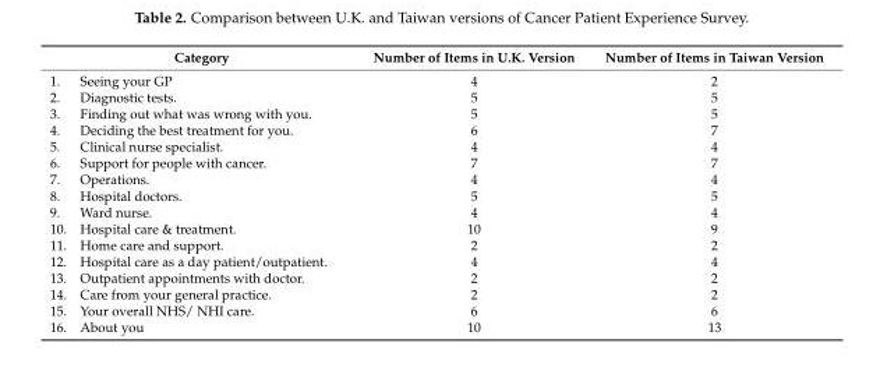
<table><thead><tr><td>Category</td><td>Number of Items in U.K. Version</td><td>Number of Items in Taiwan Version</td></tr></thead><tbody><tr><td>1. Seeing your GP</td><td>4</td><td>2</td></tr><tr><td>2. Diagnostic tests.</td><td>5</td><td>5</td></tr><tr><td>3. Finding out what was wrong with you.</td><td>5</td><td>5</td></tr><tr><td>4. Deciding the best treatment for you.</td><td>6</td><td>7</td></tr><tr><td>5. Clinical nurse specialist.</td><td>4</td><td>4</td></tr><tr><td>6. Support for people with cancer.</td><td>7</td><td>7</td></tr><tr><td>7. Operations.</td><td>4</td><td>4</td></tr><tr><td>8. Hospital doctors.</td><td>5</td><td>5</td></tr><tr><td>9. Ward nurse.</td><td>4</td><td>4</td></tr><tr><td>10. Hospital care &amp; treatment.</td><td>10</td><td>9</td></tr><tr><td>11. Home care and support.</td><td>2</td><td>2</td></tr><tr><td>12. Hospital care as a day patient/outpatient.</td><td>4</td><td>4</td></tr><tr><td>13. Outpatient appointments with doctor.</td><td>2</td><td>2</td></tr><tr><td>14. Care from your general practice.</td><td>2</td><td>2</td></tr><tr><td>15. Your overall NHS/ NHI care.</td><td>6</td><td>6</td></tr><tr><td>16. About you</td><td>10</td><td>13</td></tr></tbody></table>